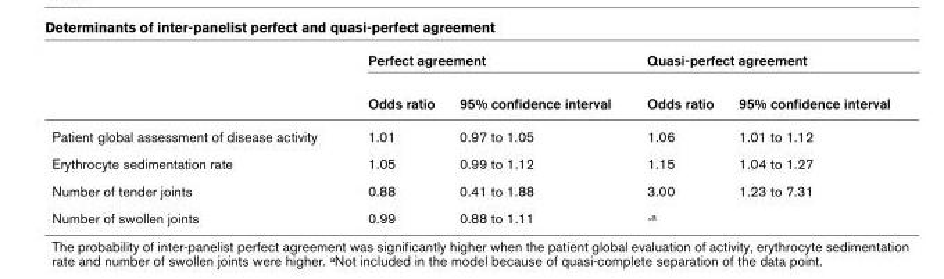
<table><thead><tr><td rowspan="2"></td><td colspan="2">Perfect agreement</td><td colspan="2">Quasi-perfect agreement</td></tr><tr><td>Odds ratio</td><td>95% confidence interval</td><td>Odds ratio</td><td>95% confidence interval</td></tr></thead><tbody><tr><td>Patient global assessment of disease activity</td><td>1.01</td><td>0.97 to 1.05</td><td>1.06</td><td>1.01 to 1.12</td></tr><tr><td>Erythrocyte sedimentation rate</td><td>1.05</td><td>0.99 to 1.12</td><td>1.15</td><td>1.04 to 1.27</td></tr><tr><td>Number of tender joints</td><td>0.88</td><td>0.41 to 1.88</td><td>3.00</td><td>1.23 to 7.31</td></tr><tr><td>Number of swollen joints</td><td>0.99</td><td>0.88 to 1.11</td><td>-<sup>a</sup></td><td></td></tr></tbody></table>